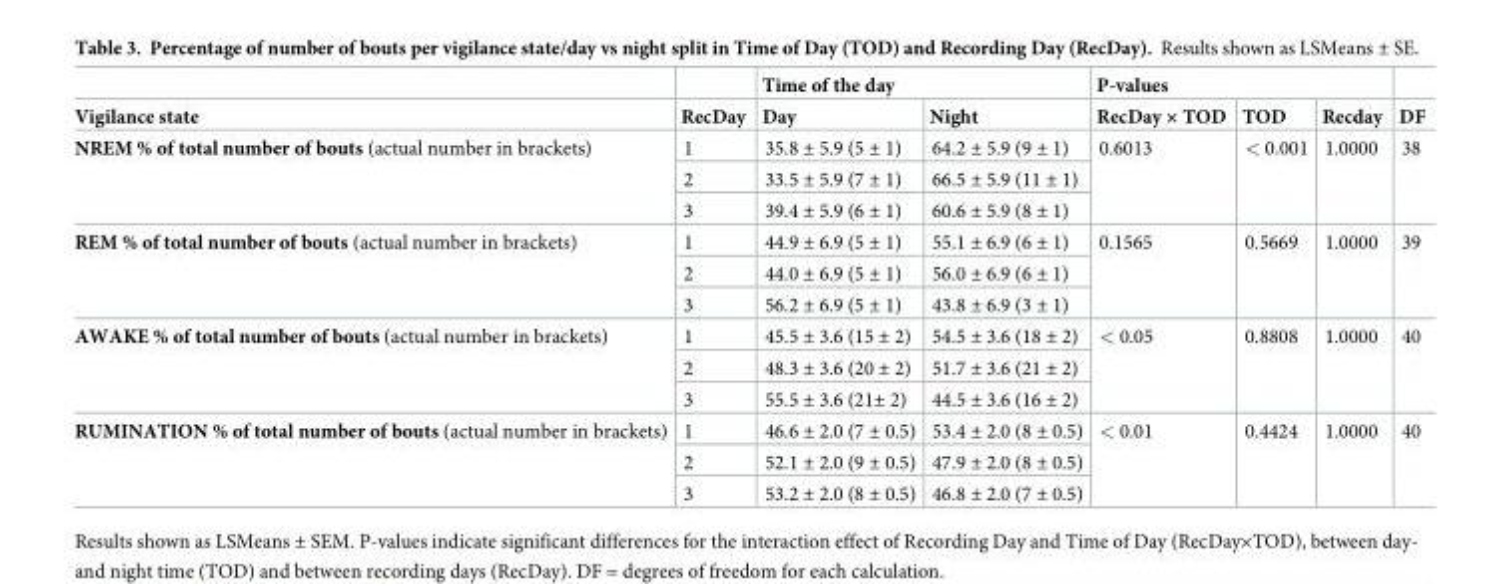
<table><thead><tr><td rowspan="2">Vigilance state</td><td rowspan="2">RecDay</td><td colspan="2">Time of the day</td><td colspan="3">P-values</td><td rowspan="2">DF</td></tr><tr><td>Day</td><td>Night</td><td>RecDay × TOD</td><td>TOD</td><td>Recday</td></tr></thead><tbody><tr><td rowspan="3">NREM % of total number of bouts (actual number in brackets)</td><td>1</td><td>35.8 ± 5.9 (5 ± 1)</td><td>64.2 ± 5.9 (9 ± 1)</td><td rowspan="3">0.6013</td><td rowspan="3">&lt; 0.001</td><td rowspan="3">1.0000</td><td rowspan="3">38</td></tr><tr><td>2</td><td>33.5 ± 5.9 (7 ± 1)</td><td>66.5 ± 5.9 (11 ± 1)</td></tr><tr><td>3</td><td>39.4 ± 5.9 (6 ± 1)</td><td>60.6 ± 5.9 (8 ± 1)</td></tr><tr><td rowspan="3">REM % of total number of bouts (actual number in brackets)</td><td>1</td><td>44.9 ± 6.9 (5 ± 1)</td><td>55.1 ± 6.9 (6 ± 1)</td><td rowspan="3">0.1565</td><td rowspan="3">0.5669</td><td rowspan="3">1.0000</td><td rowspan="3">39</td></tr><tr><td>2</td><td>44.0 ± 6.9 (5 ± 1)</td><td>56.0 ± 6.9 (6 ± 1)</td></tr><tr><td>3</td><td>56.2 ± 6.9 (5 ± 1)</td><td>43.8 ± 6.9 (3 ± 1)</td></tr><tr><td rowspan="3">AWAKE % of total number of bouts (actual number in brackets)</td><td>1</td><td>45.5 ± 3.6 (15 ± 2)</td><td>54.5 ± 3.6 (18 ± 2)</td><td rowspan="3">&lt; 0.05</td><td rowspan="3">0.8808</td><td rowspan="3">1.0000</td><td rowspan="3">40</td></tr><tr><td>2</td><td>48.3 ± 3.6 (20 ± 2)</td><td>51.7 ± 3.6 (21 ± 2)</td></tr><tr><td>3</td><td>55.5 ± 3.6 (21± 2)</td><td>44.5 ± 3.6 (16 ± 2)</td></tr><tr><td rowspan="3">RUMINATION % of total number of bouts (actual number in brackets)</td><td>1</td><td>46.6 ± 2.0 (7 ± 0.5)</td><td>53.4 ± 2.0 (8 ± 0.5)</td><td rowspan="3">&lt; 0.01</td><td rowspan="3">0.4424</td><td rowspan="3">1.0000</td><td rowspan="3">40</td></tr><tr><td>2</td><td>52.1 ± 2.0 (9 ± 0.5)</td><td>47.9 ± 2.0 (8 ± 0.5)</td></tr><tr><td>3</td><td>53.2 ± 2.0 (8 ± 0.5)</td><td>46.8 ± 2.0 (7 ± 0.5)</td></tr></tbody></table>